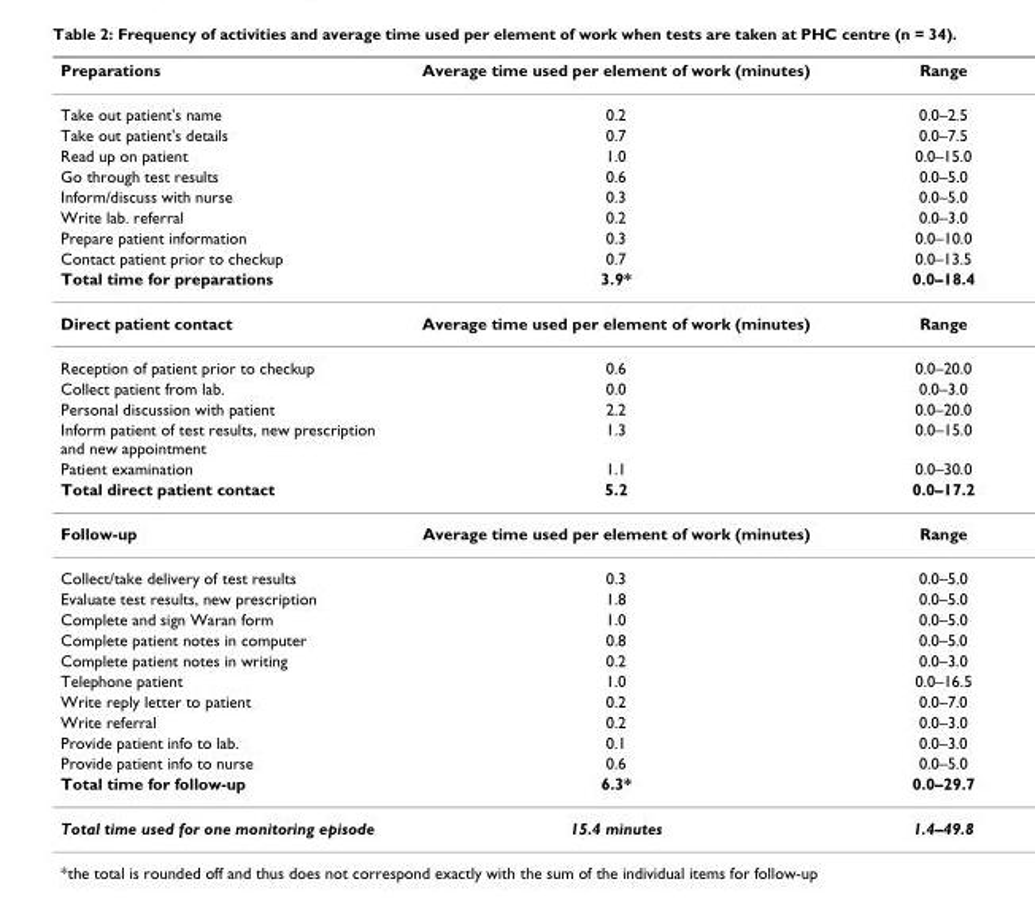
<table><thead><tr><td>Preparations</td><td>Average time used per element of work (minutes)</td><td>Range</td></tr></thead><tbody><tr><td>Take out patient&#x27;s name</td><td>0.2</td><td>0.0–2.5</td></tr><tr><td>Take out patient&#x27;s details</td><td>0.7</td><td>0.0–7.5</td></tr><tr><td>Read up on patient</td><td>1.0</td><td>0.0–15.0</td></tr><tr><td>Go through test results</td><td>0.6</td><td>0.0–5.0</td></tr><tr><td>Inform/discuss with nurse</td><td>0.3</td><td>0.0–5.0</td></tr><tr><td>Write lab. referral</td><td>0.2</td><td>0.0–3.0</td></tr><tr><td>Prepare patient information</td><td>0.3</td><td>0.0–10.0</td></tr><tr><td>Contact patient prior to checkup</td><td>0.7</td><td>0.0–13.5</td></tr><tr><td>Total time for preparations</td><td>3.9*</td><td>0.0–18.4</td></tr><tr><td>Direct patient contact</td><td>Average time used per element of work (minutes)</td><td>Range</td></tr><tr><td>Reception of patient prior to checkup</td><td>0.6</td><td>0.0–20.0</td></tr><tr><td>Collect patient from lab.</td><td>0.0</td><td>0.0–3.0</td></tr><tr><td>Personal discussion with patient</td><td>2.2</td><td>0.0–20.0</td></tr><tr><td>Inform patient of test results, new prescription and new appointment</td><td>1.3</td><td>0.0–15.0</td></tr><tr><td>Patient examination</td><td>1.1</td><td>0.0–30.0</td></tr><tr><td>Total direct patient contact</td><td>5.2</td><td>0.0–17.2</td></tr><tr><td>Follow-up</td><td>Average time used per element of work (minutes)</td><td>Range</td></tr><tr><td>Collect/take delivery of test results</td><td>0.3</td><td>0.0–5.0</td></tr><tr><td>Evaluate test results, new prescription</td><td>1.8</td><td>0.0–5.0</td></tr><tr><td>Complete and sign Waran form</td><td>1.0</td><td>0.0–5.0</td></tr><tr><td>Complete patient notes in computer</td><td>0.8</td><td>0.0–5.0</td></tr><tr><td>Complete patient notes in writing</td><td>0.2</td><td>0.0–3.0</td></tr><tr><td>Telephone patient</td><td>1.0</td><td>0.0–16.5</td></tr><tr><td>Write reply letter to patient</td><td>0.2</td><td>0.0–7.0</td></tr><tr><td>Write referral</td><td>0.2</td><td>0.0–3.0</td></tr><tr><td>Provide patient info to lab.</td><td>0.1</td><td>0.0–3.0</td></tr><tr><td>Provide patient info to nurse</td><td>0.6</td><td>0.0–5.0</td></tr><tr><td>Total time for follow-up</td><td>6.3*</td><td>0.0–29.7</td></tr><tr><td>Total time used for one monitoring episode</td><td>15.4 minutes</td><td>1.4–49.8</td></tr></tbody></table>